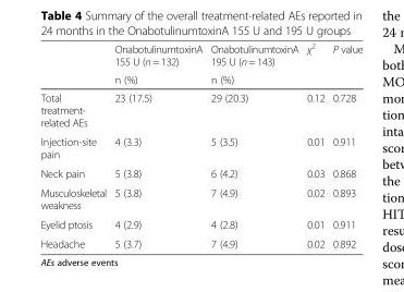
<table><thead><tr><td rowspan="2"></td><td rowspan="2">OnabotulinumtoxinA 155 U (n = 132) n (%)</td><td rowspan="2">OnabotulinumtoxinA 195 U (n = 143) n (%)</td><td rowspan="2">χ<sup>2</sup></td><td rowspan="2">P value</td></tr><tr></tr></thead><tbody><tr><td>Total treatment- related AEs</td><td>23 (17.5)</td><td>29 (20.3)</td><td>0.12</td><td>0.728</td></tr><tr><td>Injection-site pain</td><td>4 (3.3)</td><td>5 (3.5)</td><td>0.01</td><td>0.911</td></tr><tr><td>Neck pain</td><td>5 (3.8)</td><td>6 (4.2)</td><td>0.03</td><td>0.868</td></tr><tr><td>Musculoskeletal weakness</td><td>5 (3.8)</td><td>7 (4.9)</td><td>0.02</td><td>0.893</td></tr><tr><td>Eyelid ptosis</td><td>4 (2.9)</td><td>4 (2.8)</td><td>0.01</td><td>0.911</td></tr><tr><td>Headache</td><td>5 (3.7)</td><td>7 (4.9)</td><td>0.02</td><td>0.892</td></tr></tbody></table>